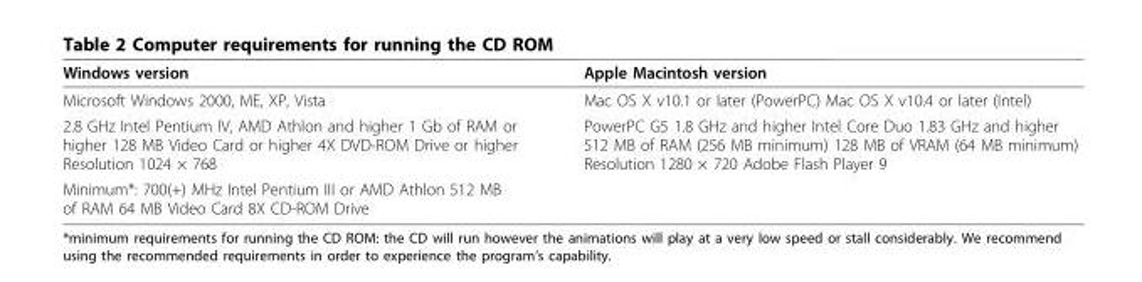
<table><thead><tr><td>Windows version</td><td>Apple Macintosh version</td></tr></thead><tbody><tr><td>Microsoft Windows 2000, ME, XP, Vista</td><td>Mac OS X v10.1 or later (PowerPC) Mac OS X v10.4 or later (Intel)</td></tr><tr><td>2.8 GHz Intel Pentium IV, AMD Athlon and higher 1 Gb of RAM or higher 128 MB Video Card or higher 4X DVD-ROM Drive or higher Resolution 1024 × 768</td><td>PowerPC G5 1.8 GHz and higher Intel Core Duo 1.83 GHz and higher 512 MB of RAM (256 MB minimum) 128 MB of VRAM (64 MB minimum) Resolution 1280 × 720 Adobe Flash Player 9</td></tr><tr><td>Minimum*: 700(+) MHz Intel Pentium III or AMD Athlon 512 MB of RAM 64 MB Video Card 8X CD-ROM Drive</td><td></td></tr></tbody></table>